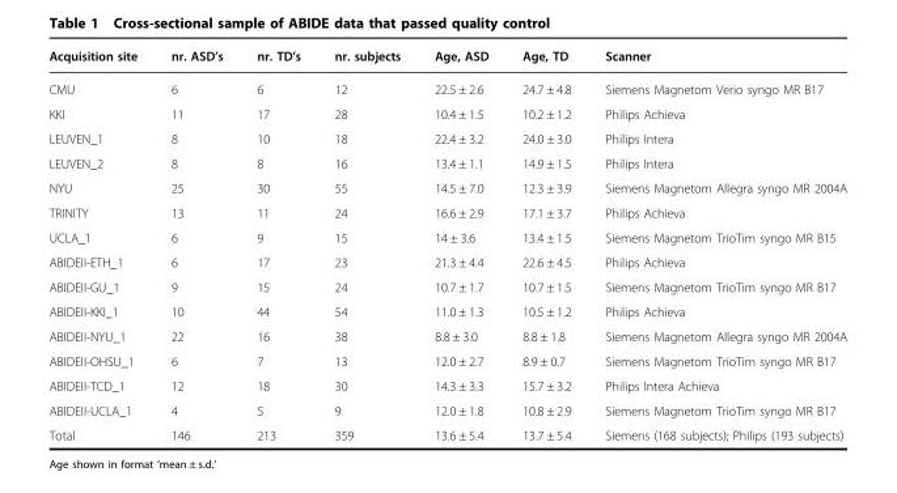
<table><thead><tr><td>Acquisition site</td><td>nr. ASD’s</td><td>nr. TD’s</td><td>nr. subjects</td><td>Age, ASD</td><td>Age, TD</td><td>Scanner</td></tr></thead><tbody><tr><td>CMU</td><td>6</td><td>6</td><td>12</td><td>22.5 ± 2.6</td><td>24.7 ± 4.8</td><td>Siemens Magnetom Verio syngo MR B17</td></tr><tr><td>KKI</td><td>11</td><td>17</td><td>28</td><td>10.4 ± 1.5</td><td>10.2 ± 1.2</td><td>Philips Achieva</td></tr><tr><td>LEUVEN_1</td><td>8</td><td>10</td><td>18</td><td>22.4 ± 3.2</td><td>24.0 ± 3.0</td><td>Philips Intera</td></tr><tr><td>LEUVEN_2</td><td>8</td><td>8</td><td>16</td><td>13.4 ± 1.1</td><td>14.9 ± 1.5</td><td>Philips Intera</td></tr><tr><td>NYU</td><td>25</td><td>30</td><td>55</td><td>14.5 ± 7.0</td><td>12.3 ± 3.9</td><td>Siemens Magnetom Allegra syngo MR 2004A</td></tr><tr><td>TRINITY</td><td>13</td><td>11</td><td>24</td><td>16.6 ± 2.9</td><td>17.1 ± 3.7</td><td>Philips Achieva</td></tr><tr><td>UCLA_1</td><td>6</td><td>9</td><td>15</td><td>14 ± 3.6</td><td>13.4 ± 1.5</td><td>Siemens Magnetom TrioTim syngo MR B15</td></tr><tr><td>ABIDEII-ETH_1</td><td>6</td><td>17</td><td>23</td><td>21.3 ± 4.4</td><td>22.6 ± 4.5</td><td>Philips Achieva</td></tr><tr><td>ABIDEII-GU_1</td><td>9</td><td>15</td><td>24</td><td>10.7 ± 1.7</td><td>10.7 ± 1.5</td><td>Siemens Magnetom TrioTim syngo MR B17</td></tr><tr><td>ABIDEII-KKI_1</td><td>10</td><td>44</td><td>54</td><td>11.0 ± 1.3</td><td>10.5 ± 1.2</td><td>Philips Achieva</td></tr><tr><td>ABIDEII-NYU_1</td><td>22</td><td>16</td><td>38</td><td>8.8 ± 3.0</td><td>8.8 ± 1.8</td><td>Siemens Magnetom Allegra syngo MR 2004A</td></tr><tr><td>ABIDEII-OHSU_1</td><td>6</td><td>7</td><td>13</td><td>12.0 ± 2.7</td><td>8.9 ± 0.7</td><td>Siemens Magnetom TrioTim syngo MR B17</td></tr><tr><td>ABIDEII-TCD_1</td><td>12</td><td>18</td><td>30</td><td>14.3 ± 3.3</td><td>15.7 ± 3.2</td><td>Philips Intera Achieva</td></tr><tr><td>ABIDEII-UCLA_1</td><td>4</td><td>5</td><td>9</td><td>12.0 ± 1.8</td><td>10.8 ± 2.9</td><td>Siemens Magnetom TrioTim syngo MR B17</td></tr><tr><td>Total</td><td>146</td><td>213</td><td>359</td><td>13.6 ± 5.4</td><td>13.7 ± 5.4</td><td>Siemens (168 subjects); Philips (193 subjects)</td></tr></tbody></table>